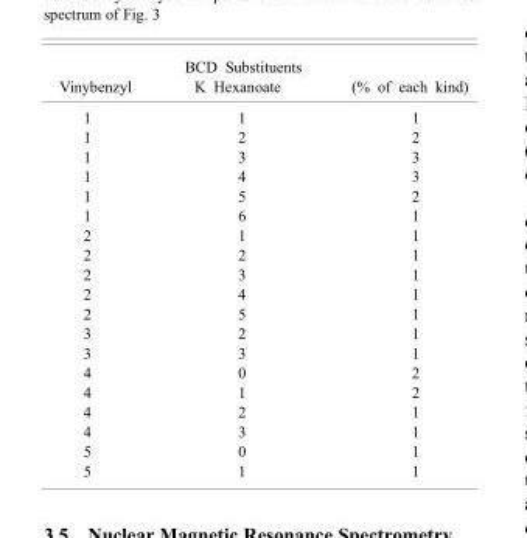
<table><thead><tr><td colspan="3">BCD Substituents</td></tr><tr><td>Vinybenzyl</td><td>K Hexanoate</td><td>(% of each kind)</td></tr></thead><tbody><tr><td>1</td><td>1</td><td>1</td></tr><tr><td>1</td><td>2</td><td>2</td></tr><tr><td>1</td><td>3</td><td>3</td></tr><tr><td>1</td><td>4</td><td>3</td></tr><tr><td>1</td><td>5</td><td>2</td></tr><tr><td>1</td><td>6</td><td>1</td></tr><tr><td>2</td><td>1</td><td>1</td></tr><tr><td>2</td><td>2</td><td>1</td></tr><tr><td>2</td><td>3</td><td>1</td></tr><tr><td>2</td><td>4</td><td>1</td></tr><tr><td>2</td><td>5</td><td>1</td></tr><tr><td>3</td><td>2</td><td>1</td></tr><tr><td>3</td><td>3</td><td>1</td></tr><tr><td>4</td><td>0</td><td>2</td></tr><tr><td>4</td><td>1</td><td>2</td></tr><tr><td>4</td><td>2</td><td>1</td></tr><tr><td>4</td><td>3</td><td>1</td></tr><tr><td>5</td><td>0</td><td>1</td></tr><tr><td>5</td><td>1</td><td>1</td></tr></tbody></table>